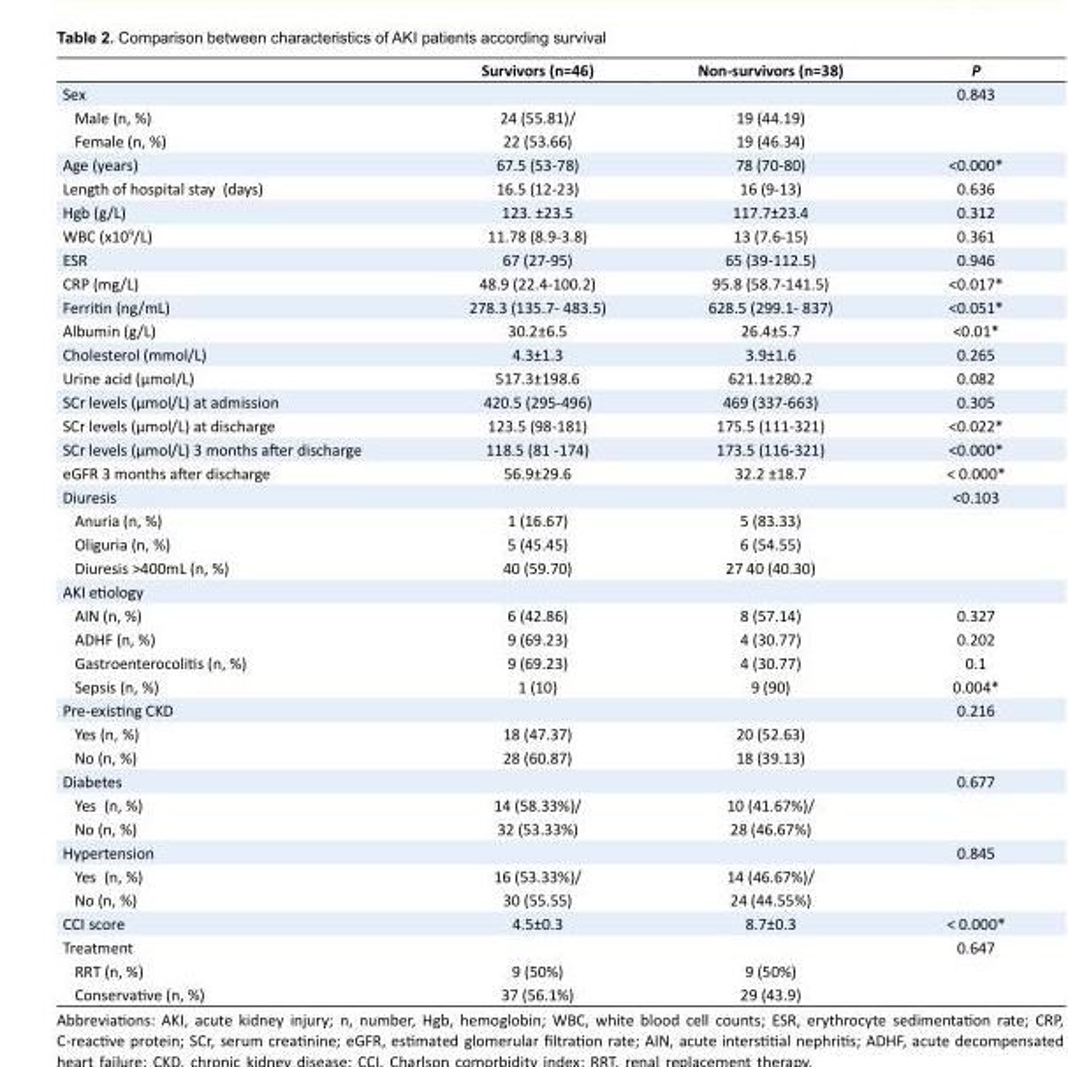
<table><thead><tr><td></td><td>Survivors (n=46)</td><td>Non-survivors (n=38)</td><td>P</td></tr></thead><tbody><tr><td>Sex</td><td></td><td></td><td>0.843</td></tr><tr><td>Male (n, %)</td><td>24 (55.81)/</td><td>19 (44.19)</td><td></td></tr><tr><td>Female (n, %)</td><td>22 (53.66)</td><td>19 (46.34)</td><td></td></tr><tr><td>Age (years)</td><td>67.5 (53-78)</td><td>78 (70-80)</td><td>&lt;0.000*</td></tr><tr><td>Length of hospital stay (days)</td><td>16.5 (12-23)</td><td>16 (9-13)</td><td>0.636</td></tr><tr><td>Hgb (g/L)</td><td>123. ±23.5</td><td>117.7±23.4</td><td>0.312</td></tr><tr><td>WBC (x10<sup>9</sup>/L)</td><td>11.78 (8.9-3.8)</td><td>13 (7.6-15)</td><td>0.361</td></tr><tr><td>ESR</td><td>67 (27-95)</td><td>65 (39-112.5)</td><td>0.946</td></tr><tr><td>CRP (mg/L)</td><td>48.9 (22.4-100.2)</td><td>95.8 (58.7-141.5)</td><td>&lt;0.017*</td></tr><tr><td>Ferritin (ng/mL)</td><td>278.3 (135.7- 483.5)</td><td>628.5 (299.1- 837)</td><td>&lt;0.051*</td></tr><tr><td>Albumin (g/L)</td><td>30.2±6.5</td><td>26.4±5.7</td><td>&lt;0.01*</td></tr><tr><td>Cholesterol (mmol/L)</td><td>4.3±1.3</td><td>3.9±1.6</td><td>0.265</td></tr><tr><td>Urine acid (μmol/L)</td><td>517.3±198.6</td><td>621.1±280.2</td><td>0.082</td></tr><tr><td>SCr levels (µmol/L) at admission</td><td>420.5 (295-496)</td><td>469 (337-663)</td><td>0.305</td></tr><tr><td>SCr levels (µmol/L) at discharge</td><td>123.5 (98-181)</td><td>175.5 (111-321)</td><td>&lt;0.022*</td></tr><tr><td>SCr levels (µmol/L) 3 months after discharge</td><td>118.5 (81 -174)</td><td>173.5 (116-321)</td><td>&lt;0.000*</td></tr><tr><td>eGFR 3 months after discharge</td><td>56.9±29.6</td><td>32.2 ±18.7</td><td>&lt; 0.000*</td></tr><tr><td>Diuresis</td><td></td><td></td><td>&lt;0.103</td></tr><tr><td>Anuria (n, %)</td><td>1 (16.67)</td><td>5 (83.33)</td><td></td></tr><tr><td>Oliguria (n, %)</td><td>5 (45.45)</td><td>6 (54.55)</td><td></td></tr><tr><td>Diuresis &gt;400mL (n, %)</td><td>40 (59.70)</td><td>27 40 (40.30)</td><td></td></tr><tr><td colspan="4">AKI etiology</td></tr><tr><td>AIN (n, %)</td><td>6 (42.86)</td><td>8 (57.14)</td><td>0.327</td></tr><tr><td>ADHF (n, %)</td><td>9 (69.23)</td><td>4 (30.77)</td><td>0.202</td></tr><tr><td>Gastroenterocolitis (n, %)</td><td>9 (69.23)</td><td>4 (30.77)</td><td>0.1</td></tr><tr><td>Sepsis (n, %)</td><td>1 (10)</td><td>9 (90)</td><td>0.004*</td></tr><tr><td>Pre-existing CKD</td><td></td><td></td><td>0.216</td></tr><tr><td>Yes (n, %)</td><td>18 (47.37)</td><td>20 (52.63)</td><td></td></tr><tr><td>No (n, %)</td><td>28 (60.87)</td><td>18 (39.13)</td><td></td></tr><tr><td>Diabetes</td><td></td><td></td><td>0.677</td></tr><tr><td>Yes (n, %)</td><td>14 (58.33%)/</td><td>10 (41.67%)/</td><td></td></tr><tr><td>No (n, %)</td><td>32 (53.33%)</td><td>28 (46.67%)</td><td></td></tr><tr><td>Hypertension</td><td></td><td></td><td>0.845</td></tr><tr><td>Yes (n, %)</td><td>16 (53.33%)/</td><td>14 (46.67%)/</td><td></td></tr><tr><td>No (n, %)</td><td>30 (55.55)</td><td>24 (44.55%)</td><td></td></tr><tr><td>CCI score</td><td>4.5±0.3</td><td>8.7±0.3</td><td>&lt; 0.000*</td></tr><tr><td>Treatment</td><td></td><td></td><td>0.647</td></tr><tr><td>RRT (n, %)</td><td>9 (50%)</td><td>9 (50%)</td><td></td></tr><tr><td>Conservative (n, %)</td><td>37 (56.1%)</td><td>29 (43.9)</td><td></td></tr></tbody></table>